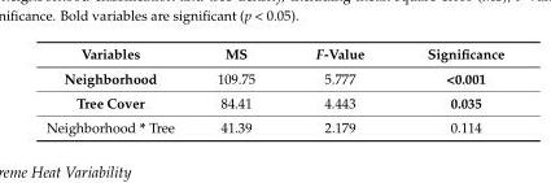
<table><thead><tr><td>Variables</td><td>MS</td><td>F-Value</td><td>Significance</td></tr></thead><tbody><tr><td>Neighborhood</td><td>109.75</td><td>5.777</td><td>&lt;0.001</td></tr><tr><td>Tree Cover</td><td>84.41</td><td>4.443</td><td>0.035</td></tr><tr><td>Neighborhood * Tree</td><td>41.39</td><td>2.179</td><td>0.114</td></tr></tbody></table>